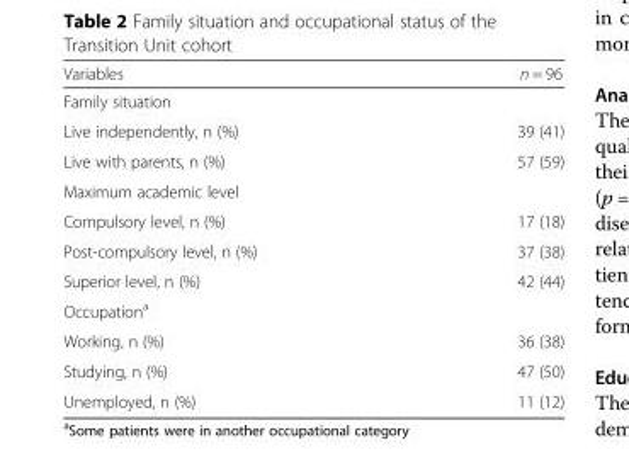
<table><thead><tr><td>Variables</td><td>n = 96</td></tr></thead><tbody><tr><td colspan="2">Family situation</td></tr><tr><td>Live independently, n (%)</td><td>39 (41)</td></tr><tr><td>Live with parents, n (%)</td><td>57 (59)</td></tr><tr><td colspan="2">Maximum academic level</td></tr><tr><td>Compulsory level, n (%)</td><td>17 (18)</td></tr><tr><td>Post-compulsory level, n (%)</td><td>37 (38)</td></tr><tr><td>Superior level, n (%)</td><td>42 (44)</td></tr><tr><td colspan="2">Occupation<sup>a</sup></td></tr><tr><td>Working, n (%)</td><td>36 (38)</td></tr><tr><td>Studying, n (%)</td><td>47 (50)</td></tr><tr><td>Unemployed, n (%)</td><td>11 (12)</td></tr></tbody></table>